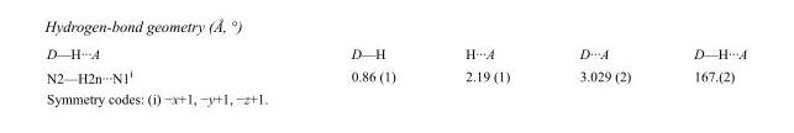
<table><tbody><tr><td>D—H···A</td><td>D—H</td><td>H···A</td><td>D···A</td><td>D—H···A</td></tr><tr><td>N2—H2n···N1<sup>i</sup></td><td>0.86 (1)</td><td>2.19 (1)</td><td>3.029 (2)</td><td>167.(2)</td></tr></tbody></table>